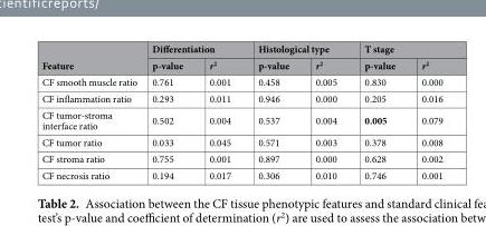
<table><thead><tr><td rowspan="2">Feature</td><td colspan="2">Differentiation</td><td colspan="2">Histological type</td><td colspan="2">T stage</td></tr><tr><td>p-value</td><td>r<sup>2</sup></td><td>p-value</td><td>r<sup>2</sup></td><td>p-value</td><td>r<sup>2</sup></td></tr></thead><tbody><tr><td>CF smooth muscle ratio</td><td>0.761</td><td>0.001</td><td>0.458</td><td>0.005</td><td>0.830</td><td>0.000</td></tr><tr><td>CF inflammation ratio</td><td>0.293</td><td>0.011</td><td>0.946</td><td>0.000</td><td>0.205</td><td>0.016</td></tr><tr><td>CF tumor-stroma interface ratio</td><td>0.502</td><td>0.004</td><td>0.537</td><td>0.004</td><td>0.005</td><td>0.079</td></tr><tr><td>CF tumor ratio</td><td>0.033</td><td>0.045</td><td>0.571</td><td>0.003</td><td>0.378</td><td>0.008</td></tr><tr><td>CF stroma ratio</td><td>0.755</td><td>0.001</td><td>0.897</td><td>0.000</td><td>0.628</td><td>0.002</td></tr><tr><td>CF necrosis ratio</td><td>0.194</td><td>0.017</td><td>0.306</td><td>0.010</td><td>0.746</td><td>0.001</td></tr></tbody></table>